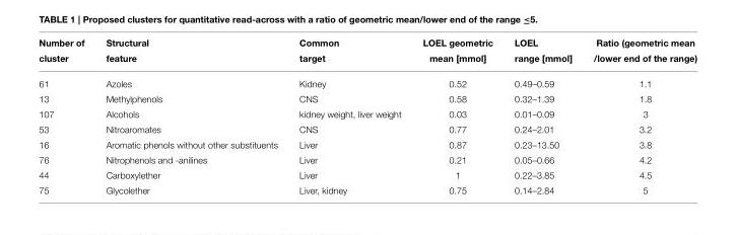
<table><thead><tr><td>Number of cluster</td><td>Structural feature</td><td>Common target</td><td>LOEL geometric mean [mmol]</td><td>LOEL range [mmol]</td><td>Ratio (geometric mean /lower end of the range)</td></tr></thead><tbody><tr><td>61</td><td>Azoles</td><td>Kidney</td><td>0.52</td><td>0.49–0.59</td><td>1.1</td></tr><tr><td>13</td><td>Methylphenols</td><td>CNS</td><td>0.58</td><td>0.32–1.39</td><td>1.8</td></tr><tr><td>107</td><td>Alcohols</td><td>kidney weight, liver weight</td><td>0.03</td><td>0.01–0.09</td><td>3</td></tr><tr><td>53</td><td>Nitroaromates</td><td>CNS</td><td>0.77</td><td>0.24–2.01</td><td>3.2</td></tr><tr><td>16</td><td>Aromatic phenols without other substituents</td><td>Liver</td><td>0.87</td><td>0.23–13.50</td><td>3.8</td></tr><tr><td>76</td><td>Nitrophenols and -anilines</td><td>Liver</td><td>0.21</td><td>0.05–0.66</td><td>4.2</td></tr><tr><td>44</td><td>Carboxylether</td><td>Liver</td><td>1</td><td>0.22–3.85</td><td>4.5</td></tr><tr><td>75</td><td>Glycolether</td><td>Liver, kidney</td><td>0.75</td><td>0.14–2.84</td><td>5</td></tr></tbody></table>